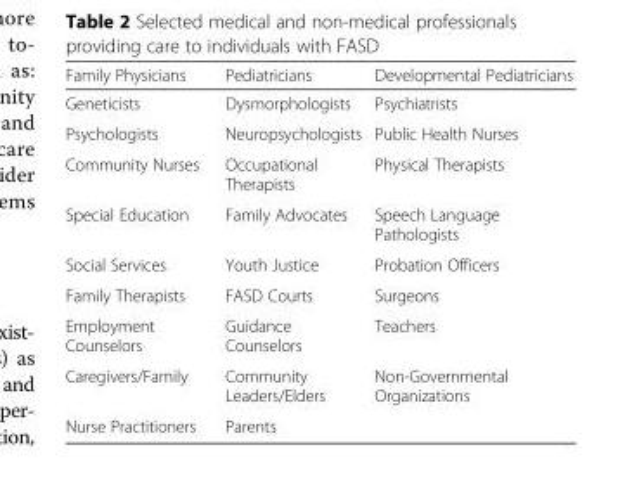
<table><thead><tr><td>Family Physicians</td><td>Pediatricians</td><td>Developmental Pediatricians</td></tr></thead><tbody><tr><td>Geneticists</td><td>Dysmorphologists</td><td>Psychiatrists</td></tr><tr><td>Psychologists</td><td>Neuropsychologists</td><td>Public Health Nurses</td></tr><tr><td>Community Nurses</td><td>Occupational Therapists</td><td>Physical Therapists</td></tr><tr><td>Special Education</td><td>Family Advocates</td><td>Speech Language Pathologists</td></tr><tr><td>Social Services</td><td>Youth Justice</td><td>Probation Officers</td></tr><tr><td>Family Therapists</td><td>FASD Courts</td><td>Surgeons</td></tr><tr><td>Employment Counselors</td><td>Guidance Counselors</td><td>Teachers</td></tr><tr><td>Caregivers/Family</td><td>Community Leaders/Elders</td><td>Non-Governmental Organizations</td></tr><tr><td>Nurse Practitioners</td><td>Parents</td><td></td></tr></tbody></table>